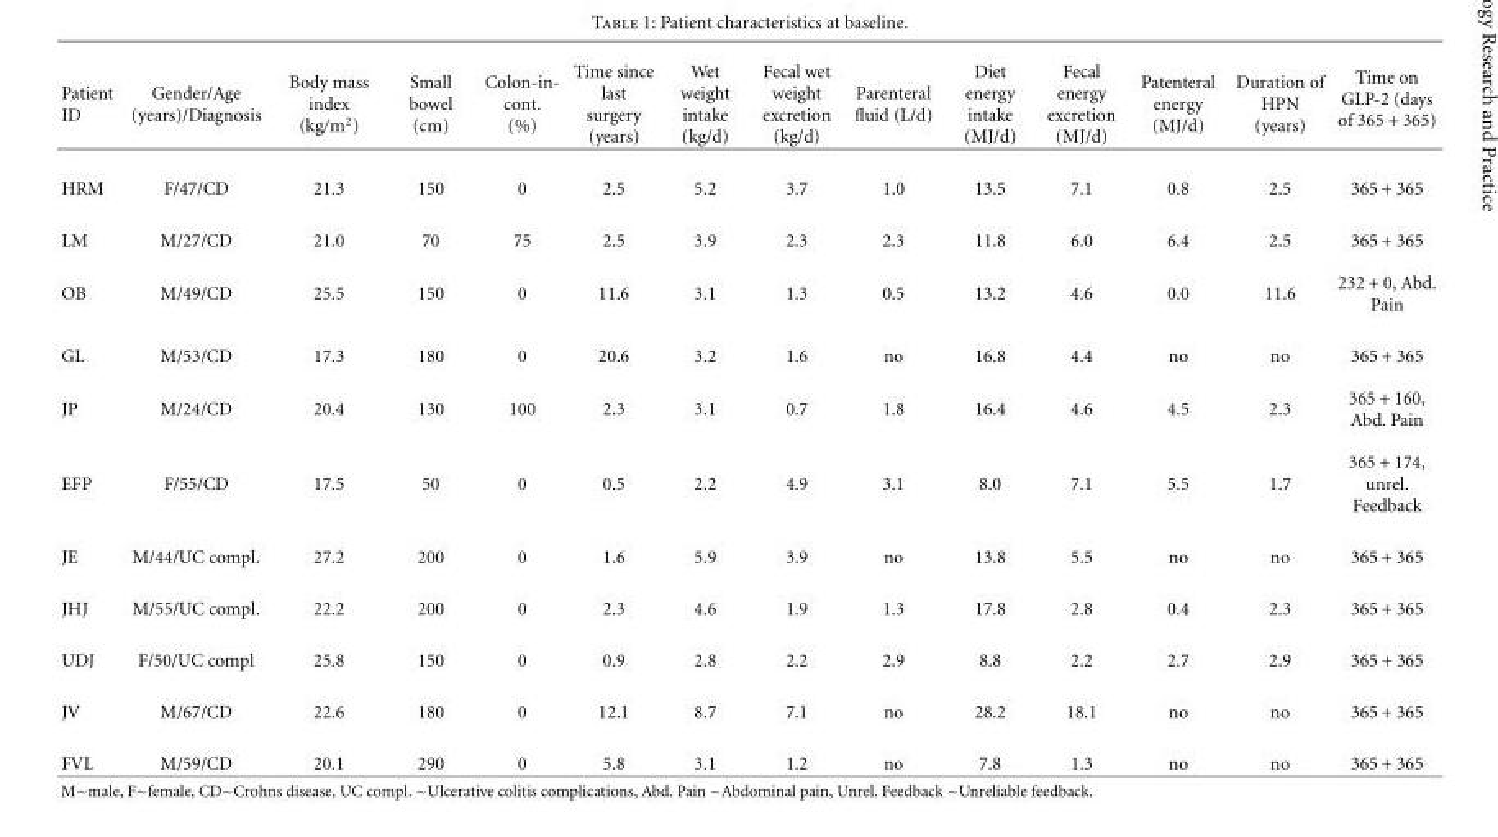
<table><thead><tr><td>Patient ID</td><td>Gender/Age (years)/Diagnosis</td><td>Body mass index (kg/m<sup>2</sup>)</td><td>Small bowel (cm)</td><td>Colon-in- cont. (%)</td><td>Time since last surgery (years)</td><td>Wet weight intake (kg/d)</td><td>Fecal wet weight excretion (kg/d)</td><td>Parenteral fluid (L/d)</td><td>Diet energy intake (MJ/d)</td><td>Fecal energy excretion (MJ/d)</td><td>Patenteral energy (MJ/d)</td><td>Duration of HPN (years)</td><td>Time on GLP-2 (days of 365 + 365)</td></tr></thead><tbody><tr><td>HRM</td><td>F/47/CD</td><td>21.3</td><td>150</td><td>0</td><td>2.5</td><td>5.2</td><td>3.7</td><td>1.0</td><td>13.5</td><td>7.1</td><td>0.8</td><td>2.5</td><td>365 + 365</td></tr><tr><td>LM</td><td>M/27/CD</td><td>21.0</td><td>70</td><td>75</td><td>2.5</td><td>3.9</td><td>2.3</td><td>2.3</td><td>11.8</td><td>6.0</td><td>6.4</td><td>2.5</td><td>365 + 365</td></tr><tr><td>OB</td><td>M/49/CD</td><td>25.5</td><td>150</td><td>0</td><td>11.6</td><td>3.1</td><td>1.3</td><td>0.5</td><td>13.2</td><td>4.6</td><td>0.0</td><td>11.6</td><td>232 + 0, Abd. Pain</td></tr><tr><td>GL</td><td>M/53/CD</td><td>17.3</td><td>180</td><td>0</td><td>20.6</td><td>3.2</td><td>1.6</td><td>no</td><td>16.8</td><td>4.4</td><td>no</td><td>no</td><td>365 + 365</td></tr><tr><td>JP</td><td>M/24/CD</td><td>20.4</td><td>130</td><td>100</td><td>2.3</td><td>3.1</td><td>0.7</td><td>1.8</td><td>16.4</td><td>4.6</td><td>4.5</td><td>2.3</td><td>365 + 160, Abd. Pain</td></tr><tr><td>EFP</td><td>F/55/CD</td><td>17.5</td><td>50</td><td>0</td><td>0.5</td><td>2.2</td><td>4.9</td><td>3.1</td><td>8.0</td><td>7.1</td><td>5.5</td><td>1.7</td><td>365 + 174, unrel. Feedback</td></tr><tr><td>JE</td><td>M/44/UC compl.</td><td>27.2</td><td>200</td><td>0</td><td>1.6</td><td>5.9</td><td>3.9</td><td>no</td><td>13.8</td><td>5.5</td><td>no</td><td>no</td><td>365 + 365</td></tr><tr><td>JHJ</td><td>M/55/UC compl.</td><td>22.2</td><td>200</td><td>0</td><td>2.3</td><td>4.6</td><td>1.9</td><td>1.3</td><td>17.8</td><td>2.8</td><td>0.4</td><td>2.3</td><td>365 + 365</td></tr><tr><td>UDJ</td><td>F/50/UC compl</td><td>25.8</td><td>150</td><td>0</td><td>0.9</td><td>2.8</td><td>2.2</td><td>2.9</td><td>8.8</td><td>2.2</td><td>2.7</td><td>2.9</td><td>365 + 365</td></tr><tr><td>JV</td><td>M/67/CD</td><td>22.6</td><td>180</td><td>0</td><td>12.1</td><td>8.7</td><td>7.1</td><td>no</td><td>28.2</td><td>18.1</td><td>no</td><td>no</td><td>365 + 365</td></tr><tr><td>FVL</td><td>M/59/CD</td><td>20.1</td><td>290</td><td>0</td><td>5.8</td><td>3.1</td><td>1.2</td><td>no</td><td>7.8</td><td>1.3</td><td>no</td><td>no</td><td>365 + 365</td></tr></tbody></table>